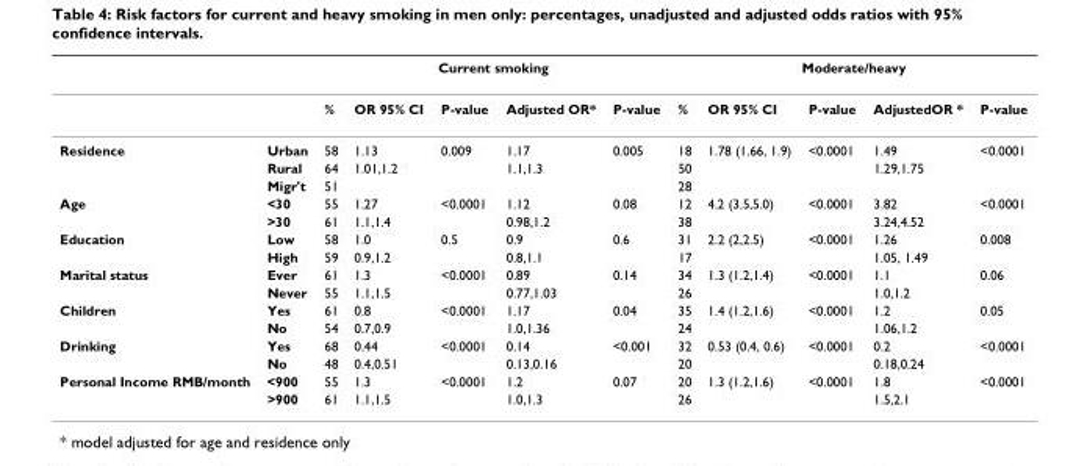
<table><thead><tr><td rowspan="2"></td><td rowspan="2"></td><td colspan="5">Current smoking</td><td colspan="5">Moderate/heavy</td></tr><tr><td>%</td><td>OR 95% CI</td><td>P-value</td><td>Adjusted OR*</td><td>P-value</td><td>%</td><td>OR 95% CI</td><td>P-value</td><td>AdjustedOR *</td><td>P-value</td></tr></thead><tbody><tr><td rowspan="3">Residence</td><td>Urban</td><td>58</td><td>1.13</td><td>0.009</td><td>1.17</td><td>0.005</td><td>18</td><td>1.78 (1.66, 1.9)</td><td>&lt;0.0001</td><td>1.49</td><td>&lt;0.0001</td></tr><tr><td>Rural</td><td>64</td><td>1.01,1.2</td><td></td><td>1.1,1.3</td><td></td><td>50</td><td></td><td></td><td>1.29,1.75</td><td></td></tr><tr><td>Migr&#x27;t</td><td>51</td><td></td><td></td><td></td><td></td><td>28</td><td></td><td></td><td></td><td></td></tr><tr><td rowspan="2">Age</td><td>&lt;30</td><td>55</td><td>1.27</td><td>&lt;0.0001</td><td>1.12</td><td>0.08</td><td>12</td><td>4.2 (3.5,5.0)</td><td>&lt;0.0001</td><td>3.82</td><td>&lt;0.0001</td></tr><tr><td>&gt;30</td><td>61</td><td>1.1,1.4</td><td></td><td>0.98,1.2</td><td></td><td>38</td><td></td><td></td><td>3.24,4.52</td><td></td></tr><tr><td rowspan="2">Education</td><td>Low</td><td>58</td><td>1.0</td><td>0.5</td><td>0.9</td><td>0.6</td><td>31</td><td>2.2 (2,2.5)</td><td>&lt;0.0001</td><td>1.26</td><td>0.008</td></tr><tr><td>High</td><td>59</td><td>0.9,1.2</td><td></td><td>0.8,1.1</td><td></td><td>17</td><td></td><td></td><td>1.05, 1.49</td><td></td></tr><tr><td rowspan="2">Marital status</td><td>Ever</td><td>61</td><td>1.3</td><td>&lt;0.0001</td><td>0.89</td><td>0.14</td><td>34</td><td>1.3 (1.2,1.4)</td><td>&lt;0.0001</td><td>1.1</td><td>0.06</td></tr><tr><td>Never</td><td>55</td><td>1.1,1.5</td><td></td><td>0.77,1.03</td><td></td><td>26</td><td></td><td></td><td>1.0,1.2</td><td></td></tr><tr><td rowspan="2">Children</td><td>Yes</td><td>61</td><td>0.8</td><td>&lt;0.0001</td><td>1.17</td><td>0.04</td><td>35</td><td>1.4 (1.2,1.6)</td><td>&lt;0.0001</td><td>1.2</td><td>0.05</td></tr><tr><td>No</td><td>54</td><td>0.7,0.9</td><td></td><td>1.0,1.36</td><td></td><td>24</td><td></td><td></td><td>1.06,1.2</td><td></td></tr><tr><td rowspan="2">Drinking</td><td>Yes</td><td>68</td><td>0.44</td><td>&lt;0.0001</td><td>0.14</td><td>&lt;0.001</td><td>32</td><td>0.53 (0.4, 0.6)</td><td>&lt;0.0001</td><td>0.2</td><td>&lt;0.0001</td></tr><tr><td>No</td><td>48</td><td>0.4,0.51</td><td></td><td>0.13,0.16</td><td></td><td>20</td><td></td><td></td><td>0.18,0.24</td><td></td></tr><tr><td rowspan="2">Personal Income RMB/month</td><td>&lt;900</td><td>55</td><td>1.3</td><td>&lt;0.0001</td><td>1.2</td><td>0.07</td><td>20</td><td>1.3 (1.2,1.6)</td><td>&lt;0.0001</td><td>1.8</td><td>&lt;0.0001</td></tr><tr><td>&gt;900</td><td>61</td><td>1.1,1.5</td><td></td><td>1.0,1.3</td><td></td><td>26</td><td></td><td></td><td>1.5,2.1</td><td></td></tr></tbody></table>